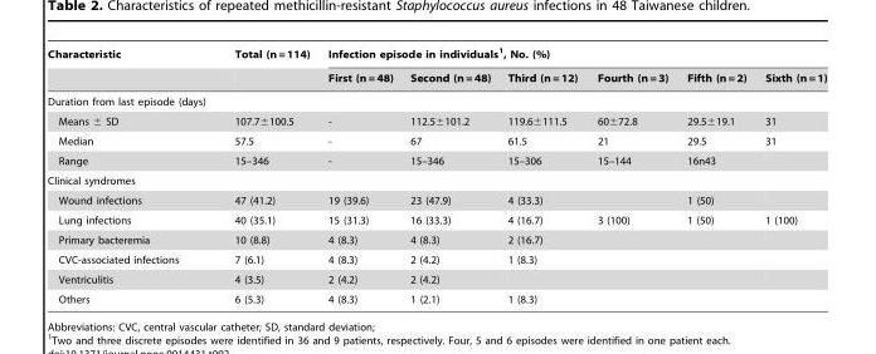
<table><thead><tr><td rowspan="2">Characteristic</td><td rowspan="2">Total (n = 114)</td><td colspan="6">Infection episode in individuals<sup>1</sup>, No. (%)</td></tr><tr><td>First (n = 48)</td><td>Second (n = 48)</td><td>Third (n = 12)</td><td>Fourth (n = 3)</td><td>Fifth (n = 2)</td><td>Sixth (n = 1)</td></tr></thead><tbody><tr><td colspan="8">Duration from last episode (days)</td></tr><tr><td>Means ± SD</td><td>107.7±100.5</td><td>-</td><td>112.5±101.2</td><td>119.6±111.5</td><td>60±72.8</td><td>29.5±19.1</td><td>31</td></tr><tr><td>Median</td><td>57.5</td><td>-</td><td>67</td><td>61.5</td><td>21</td><td>29.5</td><td>31</td></tr><tr><td>Range</td><td>15–346</td><td>-</td><td>15–346</td><td>15–306</td><td>15–144</td><td>16n43</td><td></td></tr><tr><td colspan="8">Clinical syndromes</td></tr><tr><td>Wound infections</td><td>47 (41.2)</td><td>19 (39.6)</td><td>23 (47.9)</td><td>4 (33.3)</td><td></td><td>1 (50)</td><td></td></tr><tr><td>Lung infections</td><td>40 (35.1)</td><td>15 (31.3)</td><td>16 (33.3)</td><td>4 (16.7)</td><td>3 (100)</td><td>1 (50)</td><td>1 (100)</td></tr><tr><td>Primary bacteremia</td><td>10 (8.8)</td><td>4 (8.3)</td><td>4 (8.3)</td><td>2 (16.7)</td><td></td><td></td><td></td></tr><tr><td>CVC-associated infections</td><td>7 (6.1)</td><td>4 (8.3)</td><td>2 (4.2)</td><td>1 (8.3)</td><td></td><td></td><td></td></tr><tr><td>Ventriculitis</td><td>4 (3.5)</td><td>2 (4.2)</td><td>2 (4.2)</td><td></td><td></td><td></td><td></td></tr><tr><td>Others</td><td>6 (5.3)</td><td>4 (8.3)</td><td>1 (2.1)</td><td>1 (8.3)</td><td></td><td></td><td></td></tr></tbody></table>